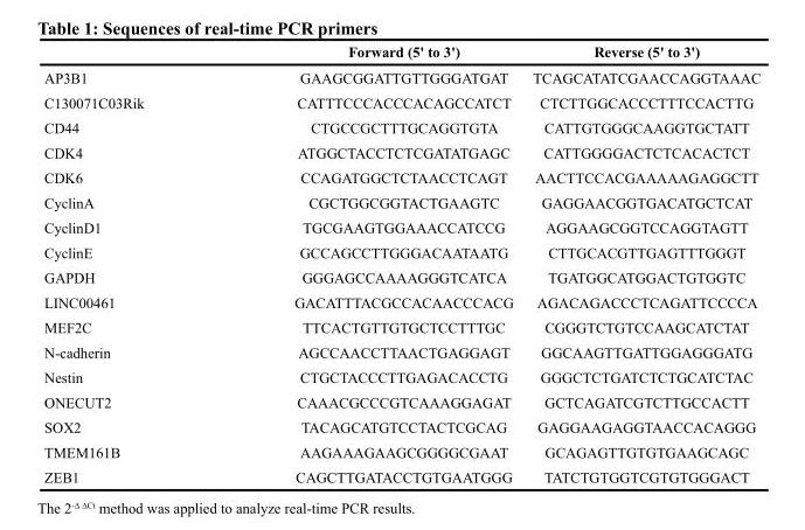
<table><thead><tr><td></td><td>Forward (5&#x27; to 3&#x27;)</td><td>Reverse (5&#x27; to 3&#x27;)</td></tr></thead><tbody><tr><td>AP3B1</td><td>GAAGCGGATTGTTGGGATGAT</td><td>TCAGCATATCGAACCAGGTAAAC</td></tr><tr><td>C130071C03Rik</td><td>CATTTCCCACCCACAGCCATCT</td><td>CTCTTGGCACCCTTTCCACTTG</td></tr><tr><td>CD44</td><td>CTGCCGCTTTGCAGGTGTA</td><td>CATTGTGGGCAAGGTGCTATT</td></tr><tr><td>CDK4</td><td>ATGGCTACCTCTCGATATGAGC</td><td>CATTGGGGACTCTCACACTCT</td></tr><tr><td>CDK6</td><td>CCAGATGGCTCTAACCTCAGT</td><td>AACTTCCACGAAAAAGAGGCTT</td></tr><tr><td>CyclinA</td><td>CGCTGGCGGTACTGAAGTC</td><td>GAGGAACGGTGACATGCTCAT</td></tr><tr><td>CyclinD1</td><td>TGCGAAGTGGAAACCATCCG</td><td>AGGAAGCGGTCCAGGTAGTT</td></tr><tr><td>CyclinE</td><td>GCCAGCCTTGGGACAATAATG</td><td>CTTGCACGTTGAGTTTGGGT</td></tr><tr><td>GAPDH</td><td>GGGAGCCAAAAGGGTCATCA</td><td>TGATGGCATGGACTGTGGTC</td></tr><tr><td>LINC00461</td><td>GACATTTACGCCACAACCCACG</td><td>AGACAGACCCTCAGATTCCCCA</td></tr><tr><td>MEF2C</td><td>TTCACTGTTGTGCTCCTTTGC</td><td>CGGGTCTGTCCAAGCATCTAT</td></tr><tr><td>N-cadherin</td><td>AGCCAACCTTAACTGAGGAGT</td><td>GGCAAGTTGATTGGAGGGATG</td></tr><tr><td>Nestin</td><td>CTGCTACCCTTGAGACACCTG</td><td>GGGCTCTGATCTCTGCATCTAC</td></tr><tr><td>ONECUT2</td><td>CAAACGCCCGTCAAAGGAGAT</td><td>GCTCAGATCGTCTTGCCACTT</td></tr><tr><td>SOX2</td><td>TACAGCATGTCCTACTCGCAG</td><td>GAGGAAGAGGTAACCACAGGG</td></tr><tr><td>TMEM161B</td><td>AAGAAAGAAGCGGGGCGAAT</td><td>GCAGAGTTGTGTGAAGCAGC</td></tr><tr><td>ZEB1</td><td>CAGCTTGATACCTGTGAATGGG</td><td>TATCTGTGGTCGTGTGGGACT</td></tr></tbody></table>